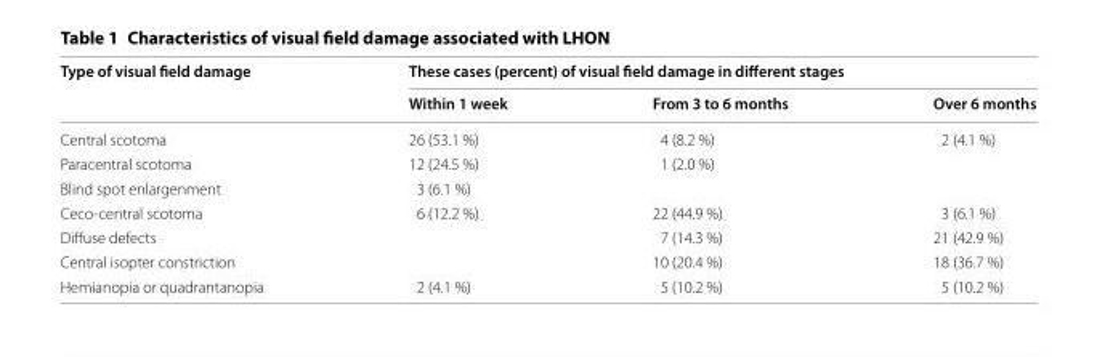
<table><thead><tr><td rowspan="2">Type of visual field damage</td><td colspan="3">These cases (percent) of visual field damage in different stages</td></tr><tr><td>Within 1 week</td><td>From 3 to 6 months</td><td>Over 6 months</td></tr></thead><tbody><tr><td>Central scotoma</td><td>26 (53.1 %)</td><td>4 (8.2 %)</td><td>2 (4.1 %)</td></tr><tr><td>Paracentral scotoma</td><td>12 (24.5 %)</td><td>1 (2.0 %)</td><td></td></tr><tr><td>Blind spot enlargenment</td><td>3 (6.1 %)</td><td></td><td></td></tr><tr><td>Ceco-central scotoma</td><td>6 (12.2 %)</td><td>22 (44.9 %)</td><td>3 (6.1 %)</td></tr><tr><td>Diffuse defects</td><td></td><td>7 (14.3 %)</td><td>21 (42.9 %)</td></tr><tr><td>Central isopter constriction</td><td></td><td>10 (20.4 %)</td><td>18 (36.7 %)</td></tr><tr><td>Hemianopia or quadrantanopia</td><td>2 (4.1 %)</td><td>5 (10.2 %)</td><td>5 (10.2 %)</td></tr></tbody></table>